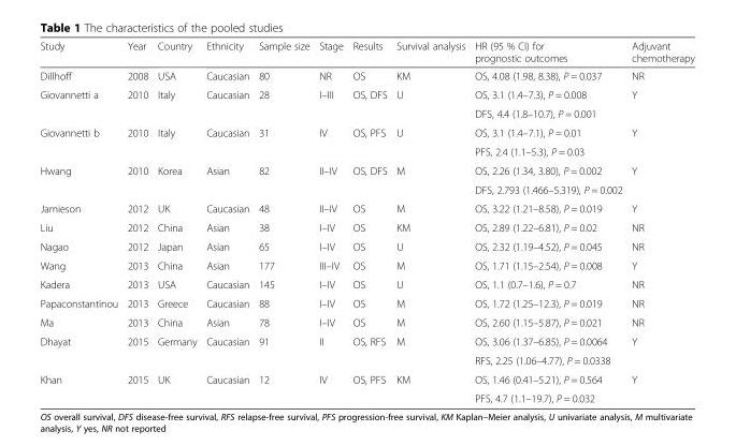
<table><thead><tr><td>Study</td><td>Year</td><td>Country</td><td>Ethnicity</td><td>Sample size</td><td>Stage</td><td>Results</td><td>Survival analysis</td><td>HR (95 % CI) for prognostic outcomes</td><td>Adjuvant chemotherapy</td></tr></thead><tbody><tr><td>Dillhoff</td><td>2008</td><td>USA</td><td>Caucasian</td><td>80</td><td>NR</td><td>OS</td><td>KM</td><td>OS, 4.08 (1.98, 8.38), P = 0.037</td><td>NR</td></tr><tr><td rowspan="2">Giovannetti a</td><td rowspan="2">2010</td><td rowspan="2">Italy</td><td rowspan="2">Caucasian</td><td rowspan="2">28</td><td rowspan="2">I–III</td><td rowspan="2">OS, DFS</td><td rowspan="2">U</td><td>OS, 3.1 (1.4–7.3), P = 0.008</td><td rowspan="2">Y</td></tr><tr><td>DFS, 4.4 (1.8–10.7), P = 0.001</td></tr><tr><td rowspan="2">Giovannetti b</td><td rowspan="2">2010</td><td rowspan="2">Italy</td><td rowspan="2">Caucasian</td><td rowspan="2">31</td><td rowspan="2">IV</td><td rowspan="2">OS, PFS</td><td rowspan="2">U</td><td>OS, 3.1 (1.4–7.1), P = 0.01</td><td rowspan="2">Y</td></tr><tr><td>PFS, 2.4 (1.1–5.3), P = 0.03</td></tr><tr><td rowspan="2">Hwang</td><td rowspan="2">2010</td><td rowspan="2">Korea</td><td rowspan="2">Asian</td><td rowspan="2">82</td><td rowspan="2">II–IV</td><td rowspan="2">OS, DFS</td><td rowspan="2">M</td><td>OS, 2.26 (1.34, 3.80), P = 0.002</td><td rowspan="2">Y</td></tr><tr><td>DFS, 2.793 (1.466–5.319), P = 0.002</td></tr><tr><td>Jamieson</td><td>2012</td><td>UK</td><td>Caucasian</td><td>48</td><td>II–IV</td><td>OS</td><td>M</td><td>OS, 3.22 (1.21–8.58), P = 0.019</td><td>Y</td></tr><tr><td>Liu</td><td>2012</td><td>China</td><td>Asian</td><td>38</td><td>I–IV</td><td>OS</td><td>KM</td><td>OS, 2.89 (1.22–6.81), P = 0.02</td><td>NR</td></tr><tr><td>Nagao</td><td>2012</td><td>Japan</td><td>Asian</td><td>65</td><td>I–IV</td><td>OS</td><td>U</td><td>OS, 2.32 (1.19–4.52), P = 0.045</td><td>NR</td></tr><tr><td>Wang</td><td>2013</td><td>China</td><td>Asian</td><td>177</td><td>III–IV</td><td>OS</td><td>M</td><td>OS, 1.71 (1.15–2.54), P = 0.008</td><td>Y</td></tr><tr><td>Kadera</td><td>2013</td><td>USA</td><td>Caucasian</td><td>145</td><td>I–IV</td><td>OS</td><td>U</td><td>OS, 1.1 (0.7–1.6), P = 0.7</td><td>NR</td></tr><tr><td>Papaconstantinou</td><td>2013</td><td>Greece</td><td>Caucasian</td><td>88</td><td>I–IV</td><td>OS</td><td>M</td><td>OS, 1.72 (1.25–12.3), P = 0.019</td><td>NR</td></tr><tr><td>Ma</td><td>2013</td><td>China</td><td>Asian</td><td>78</td><td>I–IV</td><td>OS</td><td>M</td><td>OS, 2.60 (1.15–5.87), P = 0.021</td><td>NR</td></tr><tr><td rowspan="2">Dhayat</td><td rowspan="2">2015</td><td rowspan="2">Germany</td><td rowspan="2">Caucasian</td><td rowspan="2">91</td><td rowspan="2">II</td><td rowspan="2">OS, RFS</td><td rowspan="2">M</td><td>OS, 3.06 (1.37–6.85), P = 0.0064</td><td rowspan="2">Y</td></tr><tr><td>RFS, 2.25 (1.06–4.77), P = 0.0338</td></tr><tr><td rowspan="2">Khan</td><td rowspan="2">2015</td><td rowspan="2">UK</td><td rowspan="2">Caucasian</td><td rowspan="2">12</td><td rowspan="2">IV</td><td rowspan="2">OS, PFS</td><td rowspan="2">KM</td><td>OS, 1.46 (0.41–5.21), P = 0.564</td><td rowspan="2">Y</td></tr><tr><td>PFS, 4.7 (1.1–19.7), P = 0.032</td></tr></tbody></table>